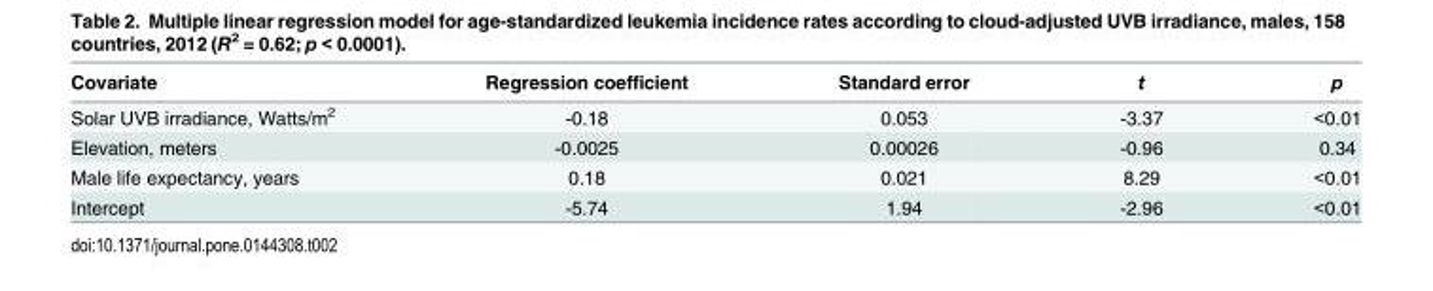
<table><thead><tr><td>Covariate</td><td>Regression coefficient</td><td>Standard error</td><td>t</td><td>p</td></tr></thead><tbody><tr><td>Solar UVB irradiance, Watts/m<sup>2</sup></td><td>-0.18</td><td>0.053</td><td>-3.37</td><td>&lt;0.01</td></tr><tr><td>Elevation, meters</td><td>-0.0025</td><td>0.00026</td><td>-0.96</td><td>0.34</td></tr><tr><td>Male life expectancy, years</td><td>0.18</td><td>0.021</td><td>8.29</td><td>&lt;0.01</td></tr><tr><td>Intercept</td><td>-5.74</td><td>1.94</td><td>-2.96</td><td>&lt;0.01</td></tr></tbody></table>